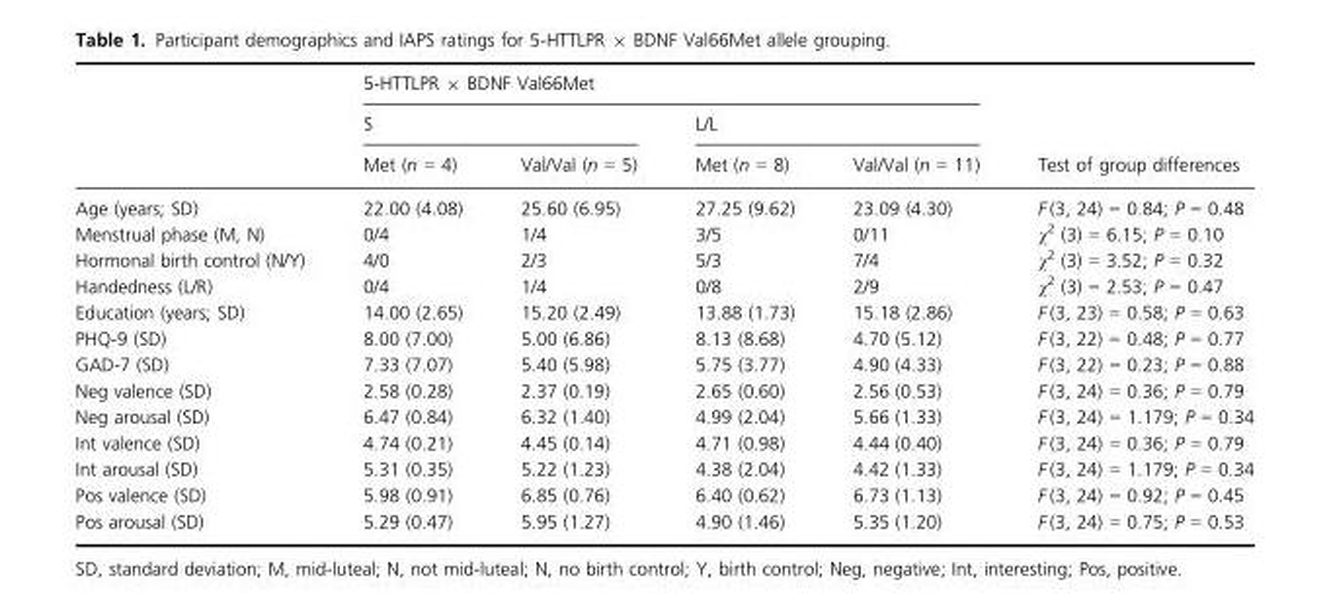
<table><thead><tr><td rowspan="3"></td><td colspan="4">5-HTTLPR × BDNF Val66Met</td><td rowspan="3">Test of group differences</td></tr><tr><td colspan="2">S</td><td colspan="2">L/L</td></tr><tr><td>Met (n = 4)</td><td>Val/Val (n = 5)</td><td>Met (n = 8)</td><td>Val/Val (n = 11)</td></tr></thead><tbody><tr><td>Age (years; SD)</td><td>22.00 (4.08)</td><td>25.60 (6.95)</td><td>27.25 (9.62)</td><td>23.09 (4.30)</td><td>F (3, 24) = 0.84; P = 0.48</td></tr><tr><td>Menstrual phase (M, N)</td><td>0/4</td><td>1/4</td><td>3/5</td><td>0/11</td><td>χ<sup>2</sup> (3) = 6.15; P = 0.10</td></tr><tr><td>Hormonal birth control (N/Y)</td><td>4/0</td><td>2/3</td><td>5/3</td><td>7/4</td><td>χ<sup>2</sup> (3) = 3.52; P = 0.32</td></tr><tr><td>Handedness (L/R)</td><td>0/4</td><td>1/4</td><td>0/8</td><td>2/9</td><td>χ<sup>2</sup> (3) = 2.53; P = 0.47</td></tr><tr><td>Education (years; SD)</td><td>14.00 (2.65)</td><td>15.20 (2.49)</td><td>13.88 (1.73)</td><td>15.18 (2.86)</td><td>F (3, 23) = 0.58; P = 0.63</td></tr><tr><td>PHQ-9 (SD)</td><td>8.00 (7.00)</td><td>5.00 (6.86)</td><td>8.13 (8.68)</td><td>4.70 (5.12)</td><td>F (3, 22) = 0.48; P = 0.77</td></tr><tr><td>GAD-7 (SD)</td><td>7.33 (7.07)</td><td>5.40 (5.98)</td><td>5.75 (3.77)</td><td>4.90 (4.33)</td><td>F (3, 22) = 0.23; P = 0.88</td></tr><tr><td>Neg valence (SD)</td><td>2.58 (0.28)</td><td>2.37 (0.19)</td><td>2.65 (0.60)</td><td>2.56 (0.53)</td><td>F (3, 24) = 0.36; P = 0.79</td></tr><tr><td>Neg arousal (SD)</td><td>6.47 (0.84)</td><td>6.32 (1.40)</td><td>4.99 (2.04)</td><td>5.66 (1.33)</td><td>F (3, 24) = 1.179; P = 0.34</td></tr><tr><td>Int valence (SD)</td><td>4.74 (0.21)</td><td>4.45 (0.14)</td><td>4.71 (0.98)</td><td>4.44 (0.40)</td><td>F (3, 24) = 0.36; P = 0.79</td></tr><tr><td>Int arousal (SD)</td><td>5.31 (0.35)</td><td>5.22 (1.23)</td><td>4.38 (2.04)</td><td>4.42 (1.33)</td><td>F (3, 24) = 1.179; P = 0.34</td></tr><tr><td>Pos valence (SD)</td><td>5.98 (0.91)</td><td>6.85 (0.76)</td><td>6.40 (0.62)</td><td>6.73 (1.13)</td><td>F (3, 24) = 0.92; P = 0.45</td></tr><tr><td>Pos arousal (SD)</td><td>5.29 (0.47)</td><td>5.95 (1.27)</td><td>4.90 (1.46)</td><td>5.35 (1.20)</td><td>F (3, 24) = 0.75; P = 0.53</td></tr></tbody></table>